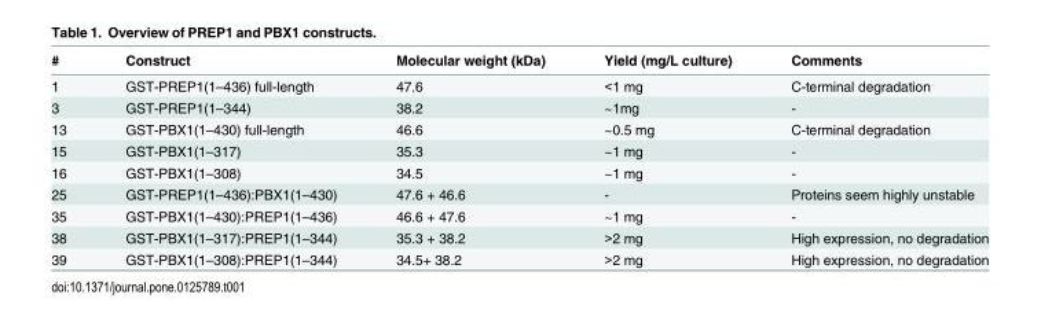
<table><thead><tr><td>#</td><td>Construct</td><td>Molecular weight (kDa)</td><td>Yield (mg/L culture)</td><td>Comments</td></tr></thead><tbody><tr><td>1</td><td>GST-PREP1(1–436) full-length</td><td>47.6</td><td>&lt;1 mg</td><td>C-terminal degradation</td></tr><tr><td>3</td><td>GST-PREP1(1–344)</td><td>38.2</td><td>~1mg</td><td>-</td></tr><tr><td>13</td><td>GST-PBX1(1–430) full-length</td><td>46.6</td><td>~0.5 mg</td><td>C-terminal degradation</td></tr><tr><td>15</td><td>GST-PBX1(1–317)</td><td>35.3</td><td>~1 mg</td><td>-</td></tr><tr><td>16</td><td>GST-PBX1(1–308)</td><td>34.5</td><td>~1 mg</td><td>-</td></tr><tr><td>25</td><td>GST-PREP1(1–436):PBX1(1–430)</td><td>47.6 + 46.6</td><td>-</td><td>Proteins seem highly unstable</td></tr><tr><td>35</td><td>GST-PBX1(1–430):PREP1(1–436)</td><td>46.6 + 47.6</td><td>~1 mg</td><td>-</td></tr><tr><td>38</td><td>GST-PBX1(1–317):PREP1(1–344)</td><td>35.3 + 38.2</td><td>&gt;2 mg</td><td>High expression, no degradation</td></tr><tr><td>39</td><td>GST-PBX1(1–308):PREP1(1–344)</td><td>34.5+ 38.2</td><td>&gt;2 mg</td><td>High expression, no degradation</td></tr></tbody></table>